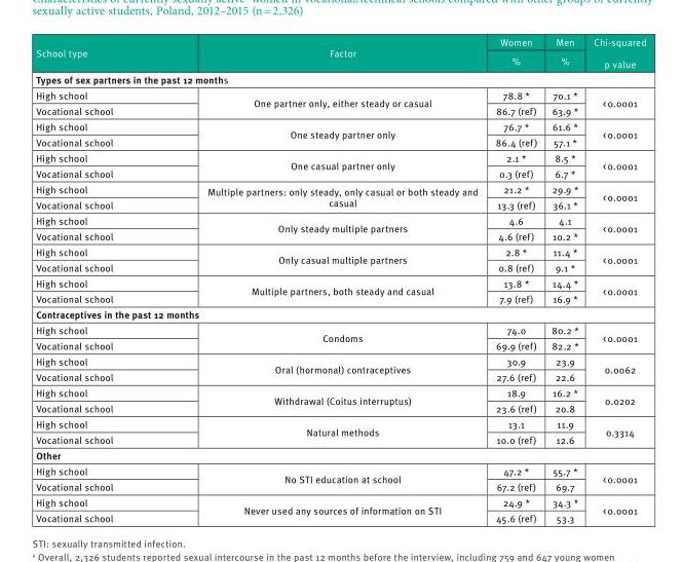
<table><thead><tr><td rowspan="2">School type</td><td rowspan="2">Factor</td><td rowspan="2">Women %</td><td rowspan="2">Men %</td><td rowspan="2">Chi-squared p value</td></tr><tr></tr></thead><tbody><tr><td colspan="5">Types of sex partners in the past 12 months</td></tr><tr><td>High school</td><td rowspan="2">One partner only, either steady or casual</td><td>78.8 *</td><td>70.1 *</td><td rowspan="2">&lt; 0.0001</td></tr><tr><td>Vocational school</td><td>86.7 (ref)</td><td>63.9 *</td></tr><tr><td>High school</td><td rowspan="2">One steady partner only</td><td>76.7 *</td><td>61.6 *</td><td rowspan="2">&lt; 0.0001</td></tr><tr><td>Vocational school</td><td>86.4 (ref)</td><td>57.1 *</td></tr><tr><td>High school</td><td rowspan="2">One casual partner only</td><td>2.1 *</td><td>8.5 *</td><td rowspan="2">&lt; 0.0001</td></tr><tr><td>Vocational school</td><td>0.3 (ref)</td><td>6.7 *</td></tr><tr><td>High school</td><td rowspan="2">Multiple partners: only steady, only casual or both steady and casual</td><td>21.2 *</td><td>29.9 *</td><td rowspan="2">&lt; 0.0001</td></tr><tr><td>Vocational school</td><td>13.3 (ref)</td><td>36.1 *</td></tr><tr><td>High school</td><td rowspan="2">Only steady multiple partners</td><td>4.6</td><td>4.1</td><td rowspan="2">&lt; 0.0001</td></tr><tr><td>Vocational school</td><td>4.6 (ref)</td><td>10.2 *</td></tr><tr><td>High school</td><td rowspan="2">Only casual multiple partners</td><td>2.8 *</td><td>11.4 *</td><td rowspan="2">&lt; 0.0001</td></tr><tr><td>Vocational school</td><td>0.8 (ref)</td><td>9.1 *</td></tr><tr><td>High school</td><td rowspan="2">Multiple partners, both steady and casual</td><td>13.8 *</td><td>14.4 *</td><td rowspan="2">&lt; 0.0001</td></tr><tr><td>Vocational school</td><td>7.9 (ref)</td><td>16.9 *</td></tr><tr><td colspan="5">Contraceptives in the past 12 months</td></tr><tr><td>High school</td><td rowspan="2">Condoms</td><td>74.0</td><td>80.2 *</td><td rowspan="2">&lt; 0.0001</td></tr><tr><td>Vocational school</td><td>69.9 (ref)</td><td>82.2 *</td></tr><tr><td>High school</td><td rowspan="2">Oral (hormonal) contraceptives</td><td>30.9</td><td>23.9</td><td rowspan="2">0.0062</td></tr><tr><td>Vocational school</td><td>27.6 (ref)</td><td>22.6</td></tr><tr><td>High school</td><td rowspan="2">Withdrawal (Coitus interruptus)</td><td>18.9</td><td>16.2 *</td><td rowspan="2">0.0202</td></tr><tr><td>Vocational school</td><td>23.6 (ref)</td><td>20.8</td></tr><tr><td>High school</td><td rowspan="2">Natural methods</td><td>13.1</td><td>11.9</td><td rowspan="2">0.3314</td></tr><tr><td>Vocational school</td><td>10.0 (ref)</td><td>12.6</td></tr><tr><td colspan="5">Other</td></tr><tr><td>High school</td><td rowspan="2">No STI education at school</td><td>47.2 *</td><td>55.7 *</td><td rowspan="2">&lt; 0.0001</td></tr><tr><td>Vocational school</td><td>67.2 (ref)</td><td>69.7</td></tr><tr><td>High school</td><td rowspan="2">Never used any sources of information on STI</td><td>24.9 *</td><td>34.3 *</td><td rowspan="2">&lt; 0.0001</td></tr><tr><td>Vocational school</td><td>45.6 (ref)</td><td>53.3</td></tr></tbody></table>